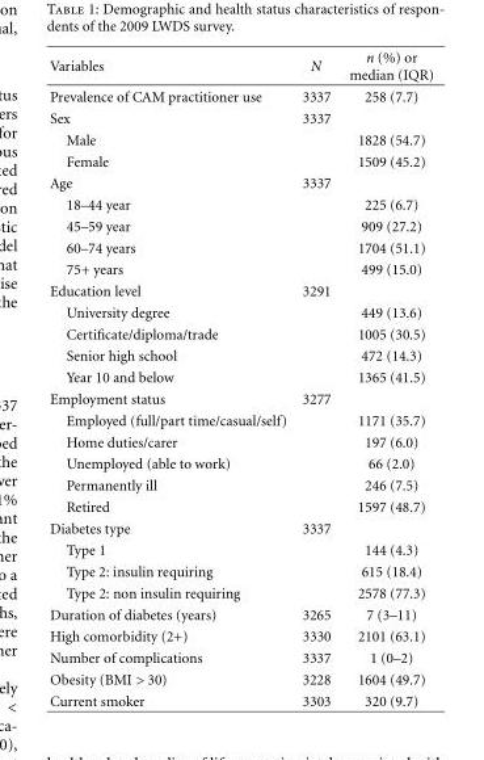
<table><thead><tr><td>Variables</td><td>N</td><td>n (%) or median (IQR)</td></tr></thead><tbody><tr><td>Prevalence of CAM practitioner use</td><td>3337</td><td>258 (7.7)</td></tr><tr><td>Sex</td><td>3337</td><td></td></tr><tr><td>Male</td><td></td><td>1828 (54.7)</td></tr><tr><td>Female</td><td></td><td>1509 (45.2)</td></tr><tr><td>Age</td><td>3337</td><td></td></tr><tr><td>18–44 year</td><td></td><td>225 (6.7)</td></tr><tr><td>45–59 year</td><td></td><td>909 (27.2)</td></tr><tr><td>60–74 years</td><td></td><td>1704 (51.1)</td></tr><tr><td>75+ years</td><td></td><td>499 (15.0)</td></tr><tr><td>Education level</td><td>3291</td><td></td></tr><tr><td>University degree</td><td></td><td>449 (13.6)</td></tr><tr><td>Certificate/diploma/trade</td><td></td><td>1005 (30.5)</td></tr><tr><td>Senior high school</td><td></td><td>472 (14.3)</td></tr><tr><td>Year 10 and below</td><td></td><td>1365 (41.5)</td></tr><tr><td>Employment status</td><td>3277</td><td></td></tr><tr><td>Employed (full/part time/casual/self)</td><td></td><td>1171 (35.7)</td></tr><tr><td>Home duties/carer</td><td></td><td>197 (6.0)</td></tr><tr><td>Unemployed (able to work)</td><td></td><td>66 (2.0)</td></tr><tr><td>Permanently ill</td><td></td><td>246 (7.5)</td></tr><tr><td>Retired</td><td></td><td>1597 (48.7)</td></tr><tr><td>Diabetes type</td><td>3337</td><td></td></tr><tr><td>Type 1</td><td></td><td>144 (4.3)</td></tr><tr><td>Type 2: insulin requiring</td><td></td><td>615 (18.4)</td></tr><tr><td>Type 2: non insulin requiring</td><td></td><td>2578 (77.3)</td></tr><tr><td>Duration of diabetes (years)</td><td>3265</td><td>7 (3–11)</td></tr><tr><td>High comorbidity (2+)</td><td>3330</td><td>2101 (63.1)</td></tr><tr><td>Number of complications</td><td>3337</td><td>1 (0–2)</td></tr><tr><td>Obesity (BMI &gt; 30)</td><td>3228</td><td>1604 (49.7)</td></tr><tr><td>Current smoker</td><td>3303</td><td>320 (9.7)</td></tr></tbody></table>